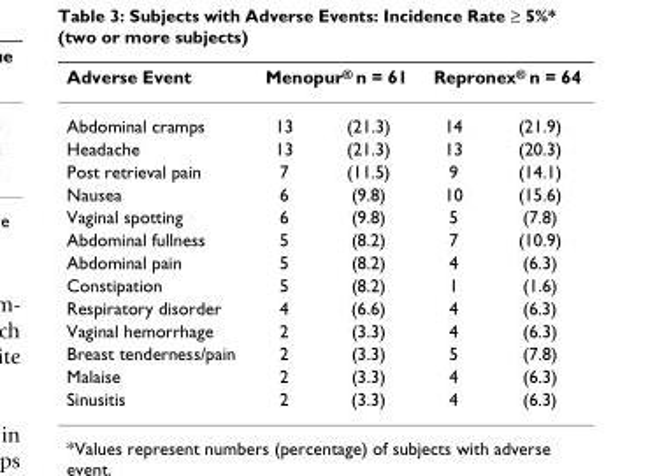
<table><thead><tr><td rowspan="2">Adverse Event Abdominal cramps</td><td colspan="2">Menopur<sup>®</sup> n = 61</td><td colspan="2">Repronex<sup>®</sup> n = 64</td></tr><tr><td>13</td><td>(21.3)</td><td>14</td><td>(21.9)</td></tr></thead><tbody><tr><td>Headache</td><td>13</td><td>(21.3)</td><td>13</td><td>(20.3)</td></tr><tr><td>Post retrieval pain</td><td>7</td><td>(11.5)</td><td>9</td><td>(14.1)</td></tr><tr><td>Nausea</td><td>6</td><td>(9.8)</td><td>10</td><td>(15.6)</td></tr><tr><td>Vaginal spotting</td><td>6</td><td>(9.8)</td><td>5</td><td>(7.8)</td></tr><tr><td>Abdominal fullness</td><td>5</td><td>(8.2)</td><td>7</td><td>(10.9)</td></tr><tr><td>Abdominal pain</td><td>5</td><td>(8.2)</td><td>4</td><td>(6.3)</td></tr><tr><td>Constipation</td><td>5</td><td>(8.2)</td><td>1</td><td>(1.6)</td></tr><tr><td>Respiratory disorder</td><td>4</td><td>(6.6)</td><td>4</td><td>(6.3)</td></tr><tr><td>Vaginal hemorrhage</td><td>2</td><td>(3.3)</td><td>4</td><td>(6.3)</td></tr><tr><td>Breast tenderness/pain</td><td>2</td><td>(3.3)</td><td>5</td><td>(7.8)</td></tr><tr><td>Malaise</td><td>2</td><td>(3.3)</td><td>4</td><td>(6.3)</td></tr><tr><td>Sinusitis</td><td>2</td><td>(3.3)</td><td>4</td><td>(6.3)</td></tr></tbody></table>